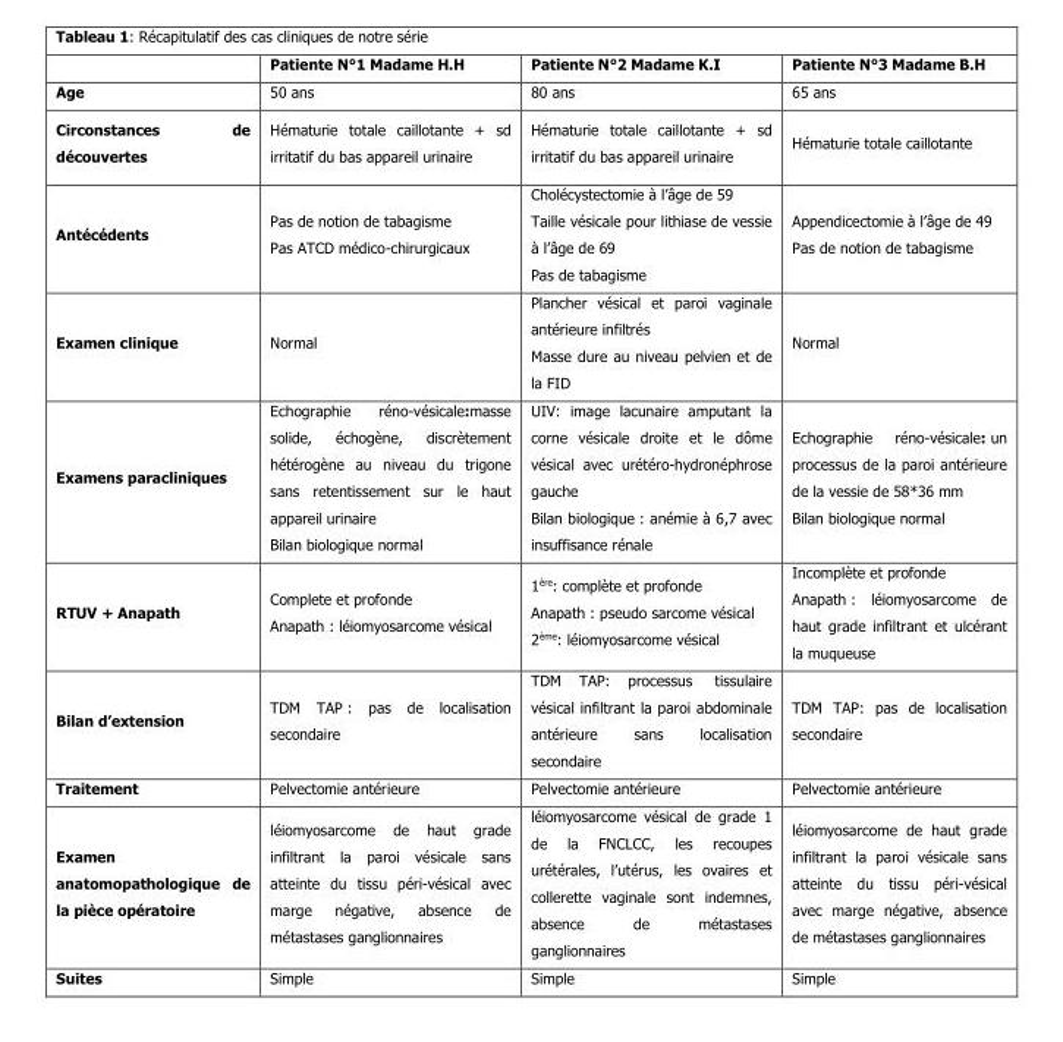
<table><thead><tr><td></td><td>Patiente N°1 Madame H.H</td><td>Patiente N°2 Madame K.I</td><td>Patiente N°3 Madame B.H</td></tr></thead><tbody><tr><td>Age</td><td>50 ans</td><td>80 ans</td><td>65 ans</td></tr><tr><td>Circonstances de découvertes</td><td>Hématurie totale caillotante + sd irritatif du bas appareil urinaire</td><td>Hématurie totale caillotante + sd irritatif du bas appareil urinaire</td><td>Hématurie totale caillotante</td></tr><tr><td>Antécédents</td><td>Pas de notion de tabagisme Pas ATCD médico-chirurgicaux</td><td>Cholécystectomie à l’âge de 59 Taille vésicale pour lithiase de vessie à l’âge de 69 Pas de tabagisme</td><td>Appendicectomie à l’âge de 49 Pas de notion de tabagisme</td></tr><tr><td>Examen clinique</td><td>Normal</td><td>Plancher vésical et paroi vaginale antérieure infiltrés Masse dure au niveau pelvien et de la FID</td><td>Normal</td></tr><tr><td>Examens paracliniques</td><td>Echographie réno-vésicale:masse solide, échogène, discrètement hétérogène au niveau du trigone sans retentissement sur le haut appareil urinaire Bilan biologique normal</td><td>UIV: image lacunaire amputant la corne vésicale droite et le dôme vésical avec urétéro-hydronéphrose gauche Bilan biologique : anémie à 6,7 avec insuffisance rénale</td><td>Echographie réno-vésicale: un processus de la paroi antérieure de la vessie de 58*36 mm Bilan biologique normal</td></tr><tr><td>RTUV + Anapath</td><td>Complete et profonde Anapath : léiomyosarcome vésical</td><td>1<sup>ère</sup>: complète et profonde Anapath : pseudo sarcome vésical 2<sup>ème</sup>: léiomyosarcome vésical</td><td>Incomplète et profonde Anapath : léiomyosarcome de haut grade infiltrant et ulcérant la muqueuse</td></tr><tr><td>Bilan d’extension</td><td>TDM TAP : pas de localisation secondaire</td><td>TDM TAP: processus tissulaire vésical infiltrant la paroi abdominale antérieure sans localisation secondaire</td><td>TDM TAP: pas de localisation secondaire</td></tr><tr><td>Traitement</td><td>Pelvectomie antérieure</td><td>Pelvectomie antérieure</td><td>Pelvectomie antérieure</td></tr><tr><td>Examen anatomopathologique de la pièce opératoire</td><td>léiomyosarcome de haut grade infiltrant la paroi vésicale sans atteinte du tissu péri-vésical avec marge négative, absence de métastases ganglionnaires</td><td>léiomyosarcome vésical de grade 1 de la FNCLCC, les recoupes urétérales, l’utérus, les ovaires et collerette vaginale sont indemnes, absence de métastases ganglionnaires</td><td>léiomyosarcome de haut grade infiltrant la paroi vésicale sans atteinte du tissu péri-vésical avec marge négative, absence de métastases ganglionnaires</td></tr><tr><td>Suites</td><td>Simple</td><td>Simple</td><td>Simple</td></tr></tbody></table>